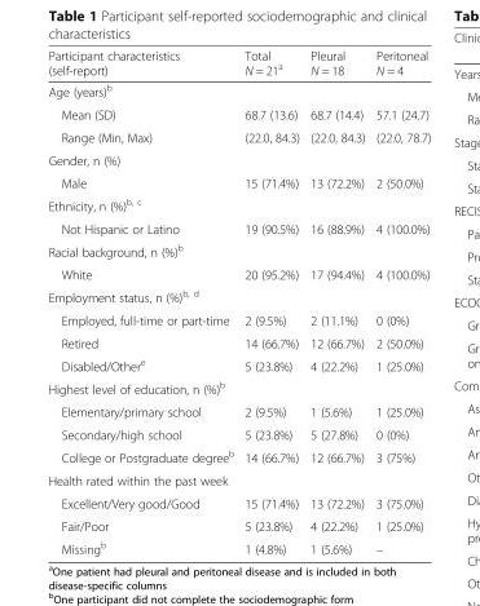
<table><thead><tr><td>Participant characteristics (self-report)</td><td>Total N = 21<sup>a</sup></td><td>Pleural N = 18</td><td>Peritoneal N = 4</td></tr></thead><tbody><tr><td colspan="4">Age (years)<sup>b</sup></td></tr><tr><td>Mean (SD)</td><td>68.7 (13.6)</td><td>68.7 (14.4)</td><td>57.1 (24.7)</td></tr><tr><td>Range (Min, Max)</td><td>(22.0, 84.3)</td><td>(22.0, 84.3)</td><td>(22.0, 78.7)</td></tr><tr><td colspan="4">Gender, n (%)</td></tr><tr><td>Male</td><td>15 (71.4%)</td><td>13 (72.2%)</td><td>2 (50.0%)</td></tr><tr><td colspan="4">Ethnicity, n (%)<sup>b, c</sup></td></tr><tr><td>Not Hispanic or Latino</td><td>19 (90.5%)</td><td>16 (88.9%)</td><td>4 (100.0%)</td></tr><tr><td colspan="4">Racial background, n (%)<sup>b</sup></td></tr><tr><td>White</td><td>20 (95.2%)</td><td>17 (94.4%)</td><td>4 (100.0%)</td></tr><tr><td colspan="4">Employment status, n (%)<sup>b, d</sup></td></tr><tr><td>Employed, full-time or part-time</td><td>2 (9.5%)</td><td>2 (11.1%)</td><td>0 (0%)</td></tr><tr><td>Retired</td><td>14 (66.7%)</td><td>12 (66.7%)</td><td>2 (50.0%)</td></tr><tr><td>Disabled/Other<sup>e</sup></td><td>5 (23.8%)</td><td>4 (22.2%)</td><td>1 (25.0%)</td></tr><tr><td colspan="4">Highest level of education, n (%)<sup>b</sup></td></tr><tr><td>Elementary/primary school</td><td>2 (9.5%)</td><td>1 (5.6%)</td><td>1 (25.0%)</td></tr><tr><td>Secondary/high school</td><td>5 (23.8%)</td><td>5 (27.8%)</td><td>0 (0%)</td></tr><tr><td>College or Postgraduate degree<sup>b</sup></td><td>14 (66.7%)</td><td>12 (66.7%)</td><td>3 (75%)</td></tr><tr><td colspan="4">Health rated within the past week</td></tr><tr><td>Excellent/Very good/Good</td><td>15 (71.4%)</td><td>13 (72.2%)</td><td>3 (75.0%)</td></tr><tr><td>Fair/Poor</td><td>5 (23.8%)</td><td>4 (22.2%)</td><td>1 (25.0%)</td></tr><tr><td>Missing<sup>b</sup></td><td>1 (4.8%)</td><td>1 (5.6%)</td><td>–</td></tr></tbody></table>